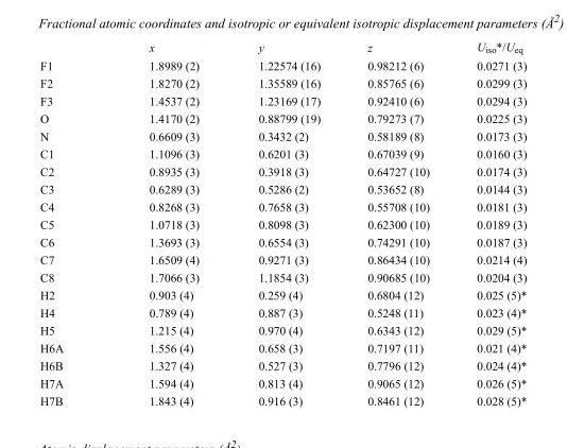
<table><thead><tr><td></td><td>x</td><td>y</td><td>z</td><td>U<sub>iso</sub>*/U<sub>eq</sub></td></tr></thead><tbody><tr><td>F1</td><td>1.8989 (2)</td><td>1.22574 (16)</td><td>0.98212 (6)</td><td>0.0271 (3)</td></tr><tr><td>F2</td><td>1.8270 (2)</td><td>1.35589 (16)</td><td>0.85765 (6)</td><td>0.0299 (3)</td></tr><tr><td>F3</td><td>1.4537 (2)</td><td>1.23169 (17)</td><td>0.92410 (6)</td><td>0.0294 (3)</td></tr><tr><td>O</td><td>1.4170 (2)</td><td>0.88799 (19)</td><td>0.79273 (7)</td><td>0.0225 (3)</td></tr><tr><td>N</td><td>0.6609 (3)</td><td>0.3432 (2)</td><td>0.58189 (8)</td><td>0.0173 (3)</td></tr><tr><td>C1</td><td>1.1096 (3)</td><td>0.6201 (3)</td><td>0.67039 (9)</td><td>0.0160 (3)</td></tr><tr><td>C2</td><td>0.8935 (3)</td><td>0.3918 (3)</td><td>0.64727 (10)</td><td>0.0174 (3)</td></tr><tr><td>C3</td><td>0.6289 (3)</td><td>0.5286 (2)</td><td>0.53652 (8)</td><td>0.0144 (3)</td></tr><tr><td>C4</td><td>0.8268 (3)</td><td>0.7658 (3)</td><td>0.55708 (10)</td><td>0.0181 (3)</td></tr><tr><td>C5</td><td>1.0718 (3)</td><td>0.8098 (3)</td><td>0.62300 (10)</td><td>0.0189 (3)</td></tr><tr><td>C6</td><td>1.3693 (3)</td><td>0.6554 (3)</td><td>0.74291 (10)</td><td>0.0187 (3)</td></tr><tr><td>C7</td><td>1.6509 (4)</td><td>0.9271 (3)</td><td>0.86434 (10)</td><td>0.0214 (4)</td></tr><tr><td>C8</td><td>1.7066 (3)</td><td>1.1854 (3)</td><td>0.90685 (10)</td><td>0.0204 (3)</td></tr><tr><td>H2</td><td>0.903 (4)</td><td>0.259 (4)</td><td>0.6804 (12)</td><td>0.025 (5)*</td></tr><tr><td>H4</td><td>0.789 (4)</td><td>0.887 (3)</td><td>0.5248 (11)</td><td>0.023 (4)*</td></tr><tr><td>H5</td><td>1.215 (4)</td><td>0.970 (4)</td><td>0.6343 (12)</td><td>0.029 (5)*</td></tr><tr><td>H6A</td><td>1.556 (4)</td><td>0.658 (3)</td><td>0.7197 (11)</td><td>0.021 (4)*</td></tr><tr><td>H6B</td><td>1.327 (4)</td><td>0.527 (3)</td><td>0.7796 (12)</td><td>0.024 (4)*</td></tr><tr><td>H7A</td><td>1.594 (4)</td><td>0.813 (4)</td><td>0.9065 (12)</td><td>0.026 (5)*</td></tr><tr><td>H7B</td><td>1.843 (4)</td><td>0.916 (3)</td><td>0.8461 (12)</td><td>0.028 (5)*</td></tr></tbody></table>